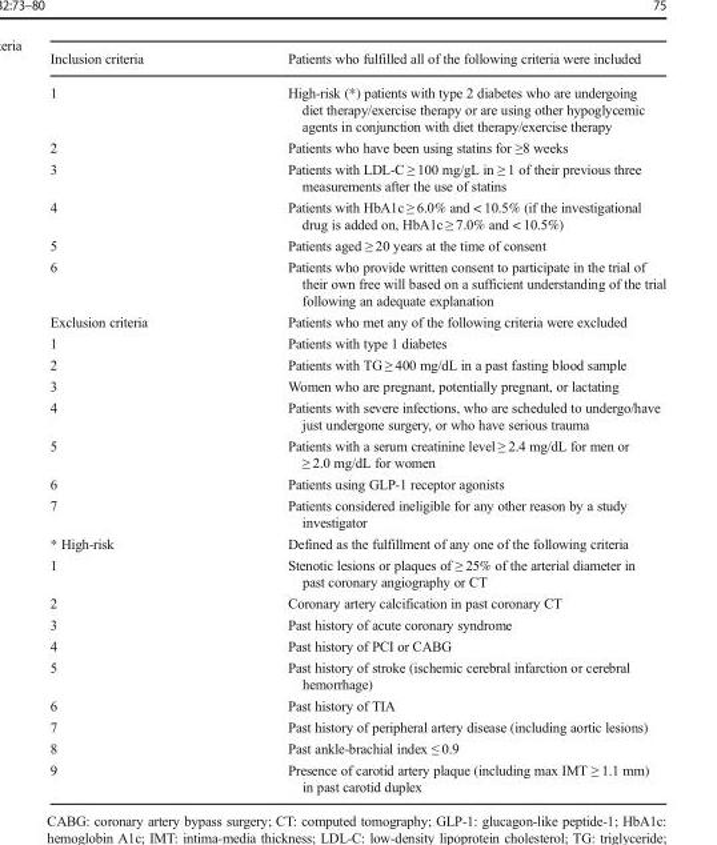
<table><thead><tr><td>Inclusion criteria</td><td>Patients who fulfilled all of the following criteria were included</td></tr></thead><tbody><tr><td>1</td><td>High-risk (*) patients with type 2 diabetes who are undergoing diet therapy/exercise therapy or are using other hypoglycemic agents in conjunction with diet therapy/exercise therapy</td></tr><tr><td>2</td><td>Patients who have been using statins for ≥8 weeks</td></tr><tr><td>3</td><td>Patients with LDL-C ≥ 100 mg/gL in ≥ 1 of their previous three measurements after the use of statins</td></tr><tr><td>4</td><td>Patients with HbA1c ≥ 6.0% and &lt; 10.5% (if the investigational drug is added on, HbA1c ≥ 7.0% and &lt; 10.5%)</td></tr><tr><td>5</td><td>Patients aged ≥ 20 years at the time of consent</td></tr><tr><td>6</td><td>Patients who provide written consent to participate in the trial of their own free will based on a sufficient understanding of the trial following an adequate explanation</td></tr><tr><td>Exclusion criteria</td><td>Patients who met any of the following criteria were excluded</td></tr><tr><td>1</td><td>Patients with type 1 diabetes</td></tr><tr><td>2</td><td>Patients with TG ≥ 400 mg/dL in a past fasting blood sample</td></tr><tr><td>3</td><td>Women who are pregnant, potentially pregnant, or lactating</td></tr><tr><td>4</td><td>Patients with severe infections, who are scheduled to undergo/have just undergone surgery, or who have serious trauma</td></tr><tr><td>5</td><td>Patients with a serum creatinine level ≥ 2.4 mg/dL for men or ≥ 2.0 mg/dL for women</td></tr><tr><td>6</td><td>Patients using GLP-1 receptor agonists</td></tr><tr><td>7</td><td>Patients considered ineligible for any other reason by a study investigator</td></tr><tr><td>* High-risk</td><td>Defined as the fulfillment of any one of the following criteria</td></tr><tr><td>1</td><td>Stenotic lesions or plaques of ≥ 25% of the arterial diameter in past coronary angiography or CT</td></tr><tr><td>2</td><td>Coronary artery calcification in past coronary CT</td></tr><tr><td>3</td><td>Past history of acute coronary syndrome</td></tr><tr><td>4</td><td>Past history of PCI or CABG</td></tr><tr><td>5</td><td>Past history of stroke (ischemic cerebral infarction or cerebral hemorrhage)</td></tr><tr><td>6</td><td>Past history of TIA</td></tr><tr><td>7</td><td>Past history of peripheral artery disease (including aortic lesions)</td></tr><tr><td>8</td><td>Past ankle-brachial index ≤ 0.9</td></tr><tr><td>9</td><td>Presence of carotid artery plaque (including max IMT ≥ 1.1 mm) in past carotid duplex</td></tr></tbody></table>